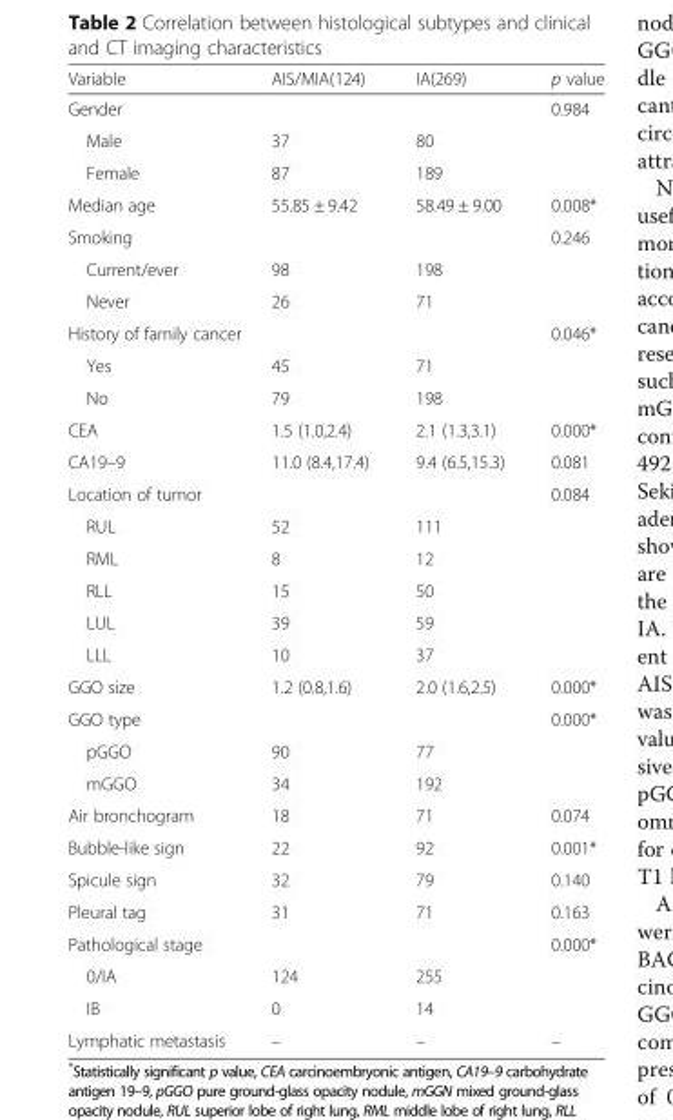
<table><thead><tr><td>Variable</td><td>AIS/MIA(124)</td><td>IA(269)</td><td>p value</td></tr></thead><tbody><tr><td colspan="3">Gender</td><td>0.984</td></tr><tr><td>Male</td><td>37</td><td>80</td><td></td></tr><tr><td>Female</td><td>87</td><td>189</td><td></td></tr><tr><td>Median age</td><td>55.85 ± 9.42</td><td>58.49 ± 9.00</td><td>0.008*</td></tr><tr><td colspan="3">Smoking</td><td>0.246</td></tr><tr><td>Current/ever</td><td>98</td><td>198</td><td></td></tr><tr><td>Never</td><td>26</td><td>71</td><td></td></tr><tr><td colspan="3">History of family cancer</td><td>0.046*</td></tr><tr><td>Yes</td><td>45</td><td>71</td><td></td></tr><tr><td>No</td><td>79</td><td>198</td><td></td></tr><tr><td>CEA</td><td>1.5 (1.0,2.4)</td><td>2.1 (1.3,3.1)</td><td>0.000*</td></tr><tr><td>CA19–9</td><td>11.0 (8.4,17.4)</td><td>9.4 (6.5,15.3)</td><td>0.081</td></tr><tr><td colspan="3">Location of tumor</td><td>0.084</td></tr><tr><td>RUL</td><td>52</td><td>111</td><td></td></tr><tr><td>RML</td><td>8</td><td>12</td><td></td></tr><tr><td>RLL</td><td>15</td><td>50</td><td></td></tr><tr><td>LUL</td><td>39</td><td>59</td><td></td></tr><tr><td>LLL</td><td>10</td><td>37</td><td></td></tr><tr><td>GGO size</td><td>1.2 (0.8,1.6)</td><td>2.0 (1.6,2.5)</td><td>0.000*</td></tr><tr><td colspan="3">GGO type</td><td>0.000*</td></tr><tr><td>pGGO</td><td>90</td><td>77</td><td></td></tr><tr><td>mGGO</td><td>34</td><td>192</td><td></td></tr><tr><td>Air bronchogram</td><td>18</td><td>71</td><td>0.074</td></tr><tr><td>Bubble-like sign</td><td>22</td><td>92</td><td>0.001*</td></tr><tr><td>Spicule sign</td><td>32</td><td>79</td><td>0.140</td></tr><tr><td>Pleural tag</td><td>31</td><td>71</td><td>0.163</td></tr><tr><td colspan="3">Pathological stage</td><td>0.000*</td></tr><tr><td>0/IA</td><td>124</td><td>255</td><td></td></tr><tr><td>IB</td><td>0</td><td>14</td><td></td></tr><tr><td>Lymphatic metastasis</td><td>–</td><td>–</td><td>–</td></tr></tbody></table>